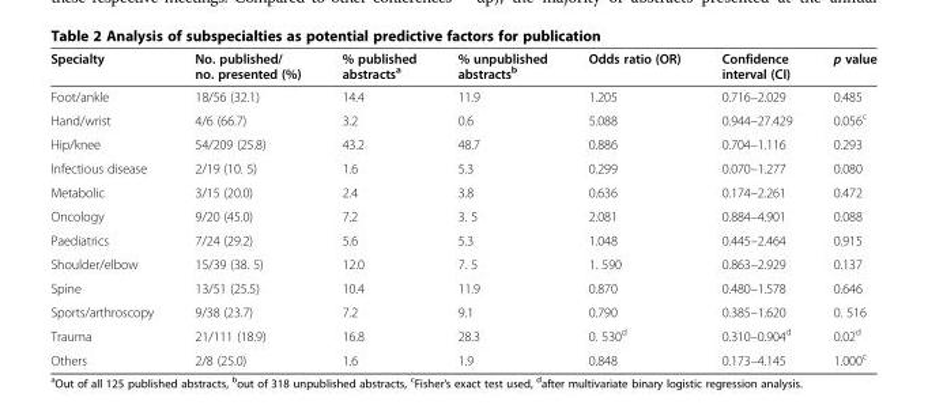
<table><thead><tr><td>Specialty</td><td>No. published/ no. presented (%)</td><td>% published abstracts<sup>a</sup></td><td>% unpublished abstracts<sup>b</sup></td><td>Odds ratio (OR)</td><td>Confidence interval (CI)</td><td>p value</td></tr></thead><tbody><tr><td>Foot/ankle</td><td>18/56 (32.1)</td><td>14.4</td><td>11.9</td><td>1.205</td><td>0.716–2.029</td><td>0.485</td></tr><tr><td>Hand/wrist</td><td>4/6 (66.7)</td><td>3.2</td><td>0.6</td><td>5.088</td><td>0.944–27.429</td><td>0.056<sup>c</sup></td></tr><tr><td>Hip/knee</td><td>54/209 (25.8)</td><td>43.2</td><td>48.7</td><td>0.886</td><td>0.704–1.116</td><td>0.293</td></tr><tr><td>Infectious disease</td><td>2/19 (10. 5)</td><td>1.6</td><td>5.3</td><td>0.299</td><td>0.070–1.277</td><td>0.080</td></tr><tr><td>Metabolic</td><td>3/15 (20.0)</td><td>2.4</td><td>3.8</td><td>0.636</td><td>0.174–2.261</td><td>0.472</td></tr><tr><td>Oncology</td><td>9/20 (45.0)</td><td>7.2</td><td>3. 5</td><td>2.081</td><td>0.884–4.901</td><td>0.088</td></tr><tr><td>Paediatrics</td><td>7/24 (29.2)</td><td>5.6</td><td>5.3</td><td>1.048</td><td>0.445–2.464</td><td>0.915</td></tr><tr><td>Shoulder/elbow</td><td>15/39 (38. 5)</td><td>12.0</td><td>7. 5</td><td>1. 590</td><td>0.863–2.929</td><td>0.137</td></tr><tr><td>Spine</td><td>13/51 (25.5)</td><td>10.4</td><td>11.9</td><td>0.870</td><td>0.480–1.578</td><td>0.646</td></tr><tr><td>Sports/arthroscopy</td><td>9/38 (23.7)</td><td>7.2</td><td>9.1</td><td>0.790</td><td>0.385–1.620</td><td>0. 516</td></tr><tr><td>Trauma</td><td>21/111 (18.9)</td><td>16.8</td><td>28.3</td><td>0. 530<sup>d</sup></td><td>0.310–0.904<sup>d</sup></td><td>0.02<sup>d</sup></td></tr><tr><td>Others</td><td>2/8 (25.0)</td><td>1.6</td><td>1.9</td><td>0.848</td><td>0.173–4.145</td><td>1.000<sup>c</sup></td></tr></tbody></table>